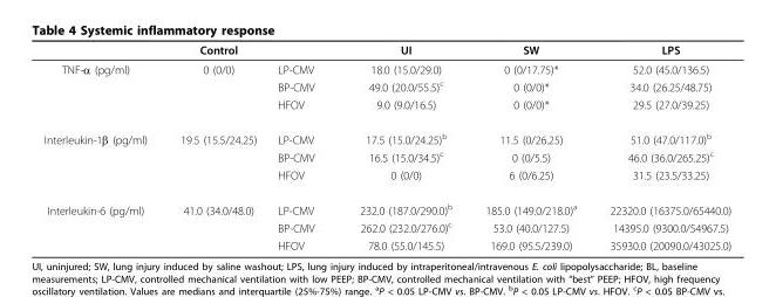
<table><thead><tr><td></td><td>Control</td><td></td><td>UI</td><td>SW</td><td>LPS</td></tr></thead><tbody><tr><td rowspan="3">TNF-α (pg/ml)</td><td>0 (0/0)</td><td>LP-CMV</td><td>18.0 (15.0/29.0)</td><td>0 (0/17.75)*</td><td>52.0 (45.0/136.5)</td></tr><tr><td></td><td>BP-CMV</td><td>49.0 (20.0/55.5)<sup>c</sup></td><td>0 (0/0)*</td><td>34.0 (26.25/48.75)</td></tr><tr><td></td><td>HFOV</td><td>9.0 (9.0/16.5)</td><td>0 (0/0)*</td><td>29.5 (27.0/39.25)</td></tr><tr><td rowspan="3">Interleukin-1β (pg/ml)</td><td>19.5 (15.5/24.25)</td><td>LP-CMV</td><td>17.5 (15.0/24.25)<sup>b</sup></td><td>11.5 (0/26.25)</td><td>51.0 (47.0/117.0)<sup>b</sup></td></tr><tr><td></td><td>BP-CMV</td><td>16.5 (15.0/34.5)<sup>c</sup></td><td>0 (0/5.5)</td><td>46.0 (36.0/265.25)<sup>c</sup></td></tr><tr><td></td><td>HFOV</td><td>0 (0/0)</td><td>6 (0/6.25)</td><td>31.5 (23.5/33.25)</td></tr><tr><td rowspan="3">Interleukin-6 (pg/ml)</td><td>41.0 (34.0/48.0)</td><td>LP-CMV</td><td>232.0 (187.0/290.0)<sup>b</sup></td><td>185.0 (149.0/218.0)<sup>a</sup></td><td>22320.0 (16375.0/65440.0)</td></tr><tr><td></td><td>BP-CMV</td><td>262.0 (232.0/276.0)<sup>c</sup></td><td>53.0 (40.0/127.5)</td><td>14395.0 (9300.0/54967.5)</td></tr><tr><td></td><td>HFOV</td><td>78.0 (55.0/145.5)</td><td>169.0 (95.5/239.0)</td><td>35930.0 (20090.0/43025.0)</td></tr></tbody></table>